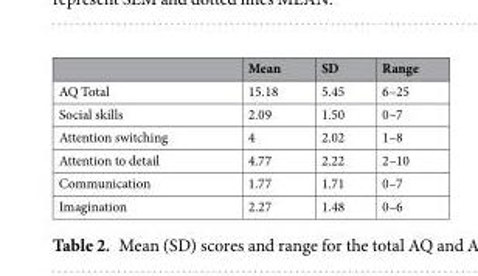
<table><thead><tr><td></td><td>Mean</td><td>SD</td><td>Range</td></tr></thead><tbody><tr><td>AQ Total</td><td>15.18</td><td>5.45</td><td>6–25</td></tr><tr><td>Social skills</td><td>2.09</td><td>1.50</td><td>0–7</td></tr><tr><td>Attention switching</td><td>4</td><td>2.02</td><td>1–8</td></tr><tr><td>Attention to detail</td><td>4.77</td><td>2.22</td><td>2–10</td></tr><tr><td>Communication</td><td>1.77</td><td>1.71</td><td>0–7</td></tr><tr><td>Imagination</td><td>2.27</td><td>1.48</td><td>0–6</td></tr></tbody></table>